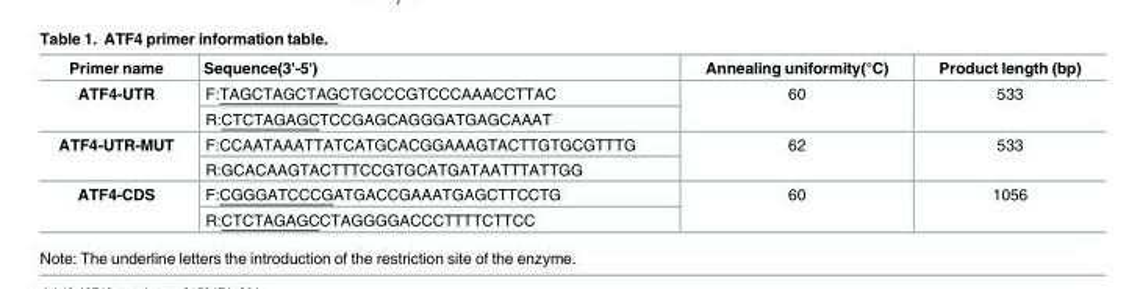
<table><thead><tr><td>Primer name</td><td>Sequence(3&#x27;-5&#x27;)</td><td>Annealing uniformity(°C)</td><td>Product length (bp)</td></tr></thead><tbody><tr><td rowspan="2">ATF4-UTR</td><td>F:TAGCTAGCTAGCTGCCCGTCCCAAACCTTAC</td><td rowspan="2">60</td><td rowspan="2">533</td></tr><tr><td>R:CTCTAGAGCTCCGAGCAGGGATGAGCAAAT</td></tr><tr><td rowspan="2">ATF4-UTR-MUT</td><td>F:CCAATAAATTATCATGCACGGAAAGTACTTGTGCGTTTG</td><td rowspan="2">62</td><td rowspan="2">533</td></tr><tr><td>R:GCACAAGTACTTTCCGTGCATGATAATTTATTGG</td></tr><tr><td rowspan="2">ATF4-CDS</td><td>F:CGGGATCCCGATGACCGAAATGAGCTTCCTG</td><td rowspan="2">60</td><td rowspan="2">1056</td></tr><tr><td>R:CTCTAGAGCCTAGGGGACCCTTTTCTTCC</td></tr></tbody></table>